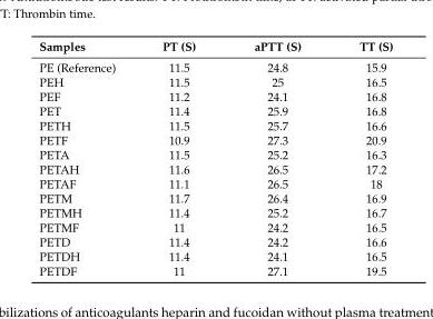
<table><thead><tr><td>Samples</td><td>PT (S)</td><td>aPTT (S)</td><td>TT (S)</td></tr></thead><tbody><tr><td>PE (Reference)</td><td>11.5</td><td>24.8</td><td>15.9</td></tr><tr><td>PEH</td><td>11.5</td><td>25</td><td>16.5</td></tr><tr><td>PEF</td><td>11.2</td><td>24.1</td><td>16.8</td></tr><tr><td>PET</td><td>11.4</td><td>25.9</td><td>16.8</td></tr><tr><td>PETH</td><td>11.5</td><td>25.7</td><td>16.6</td></tr><tr><td>PETF</td><td>10.9</td><td>27.3</td><td>20.9</td></tr><tr><td>PETA</td><td>11.5</td><td>25.2</td><td>16.3</td></tr><tr><td>PETAH</td><td>11.6</td><td>26.5</td><td>17.2</td></tr><tr><td>PETAF</td><td>11.1</td><td>26.5</td><td>18</td></tr><tr><td>PETM</td><td>11.7</td><td>26.4</td><td>16.9</td></tr><tr><td>PETMH</td><td>11.4</td><td>25.2</td><td>16.7</td></tr><tr><td>PETMF</td><td>11</td><td>24.2</td><td>16.5</td></tr><tr><td>PETD</td><td>11.4</td><td>24.2</td><td>16.6</td></tr><tr><td>PETDH</td><td>11.4</td><td>24.1</td><td>16.5</td></tr><tr><td>PETDF</td><td>11</td><td>27.1</td><td>19.5</td></tr></tbody></table>